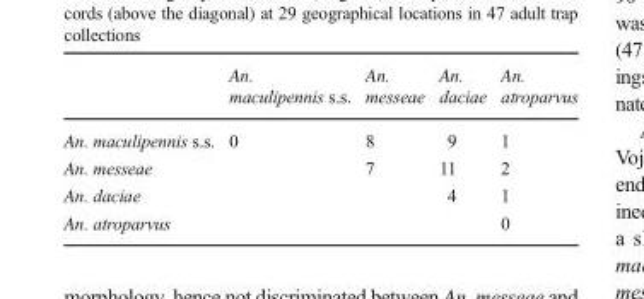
<table><thead><tr><td></td><td>An. maculipennis s.s.</td><td>An. messeae</td><td>An. daciae</td><td>An. atroparvus</td></tr></thead><tbody><tr><td>An. maculipennis s.s.</td><td>0</td><td>8</td><td>9</td><td>1</td></tr><tr><td>An. messeae</td><td></td><td>7</td><td>11</td><td>2</td></tr><tr><td>An. daciae</td><td></td><td></td><td>4</td><td>1</td></tr><tr><td>An. atroparvus</td><td></td><td></td><td></td><td>0</td></tr></tbody></table>